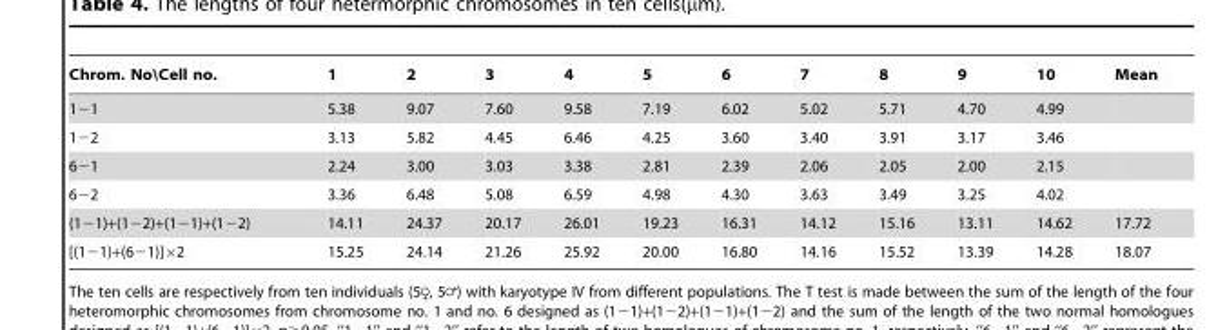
<table><thead><tr><td>Chrom. No\Cell no.</td><td>1</td><td>2</td><td>3</td><td>4</td><td>5</td><td>6</td><td>7</td><td>8</td><td>9</td><td>10</td><td>Mean</td></tr></thead><tbody><tr><td>1−1</td><td>5.38</td><td>9.07</td><td>7.60</td><td>9.58</td><td>7.19</td><td>6.02</td><td>5.02</td><td>5.71</td><td>4.70</td><td>4.99</td><td></td></tr><tr><td>1−2</td><td>3.13</td><td>5.82</td><td>4.45</td><td>6.46</td><td>4.25</td><td>3.60</td><td>3.40</td><td>3.91</td><td>3.17</td><td>3.46</td><td></td></tr><tr><td>6−1</td><td>2.24</td><td>3.00</td><td>3.03</td><td>3.38</td><td>2.81</td><td>2.39</td><td>2.06</td><td>2.05</td><td>2.00</td><td>2.15</td><td></td></tr><tr><td>6−2</td><td>3.36</td><td>6.48</td><td>5.08</td><td>6.59</td><td>4.98</td><td>4.30</td><td>3.63</td><td>3.49</td><td>3.25</td><td>4.02</td><td></td></tr><tr><td>(1−1)+(1−2)+(1−1)+(1−2)</td><td>14.11</td><td>24.37</td><td>20.17</td><td>26.01</td><td>19.23</td><td>16.31</td><td>14.12</td><td>15.16</td><td>13.11</td><td>14.62</td><td>17.72</td></tr><tr><td>[(1−1)+(6−1)]×2</td><td>15.25</td><td>24.14</td><td>21.26</td><td>25.92</td><td>20.00</td><td>16.80</td><td>14.16</td><td>15.52</td><td>13.39</td><td>14.28</td><td>18.07</td></tr></tbody></table>